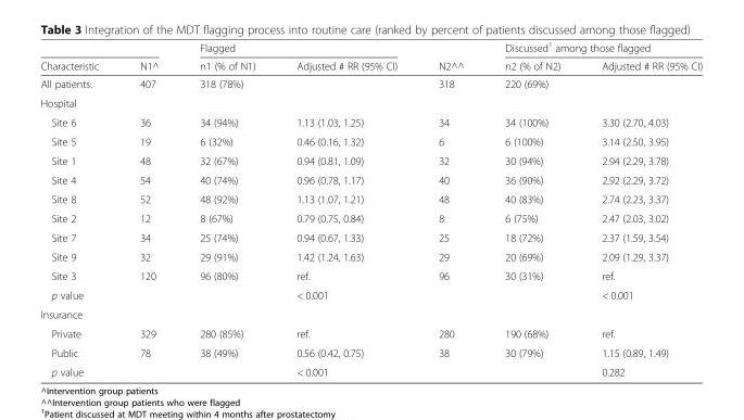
<table><thead><tr><td rowspan="2">Characteristic</td><td rowspan="2">N1^</td><td colspan="2">Flagged</td><td rowspan="2">N2^^</td><td colspan="2">Discussed<sup>1</sup> among those flagged</td></tr><tr><td>n1 (% of N1)</td><td>Adjusted # RR (95% CI)</td><td>n2 (% of N2)</td><td>Adjusted # RR (95% CI)</td></tr></thead><tbody><tr><td>All patients:</td><td>407</td><td>318 (78%)</td><td></td><td>318</td><td>220 (69%)</td><td></td></tr><tr><td colspan="7">Hospital</td></tr><tr><td>Site 6</td><td>36</td><td>34 (94%)</td><td>1.13 (1.03, 1.25)</td><td>34</td><td>34 (100%)</td><td>3.30 (2.70, 4.03)</td></tr><tr><td>Site 5</td><td>19</td><td>6 (32%)</td><td>0.46 (0.16, 1.32)</td><td>6</td><td>6 (100%)</td><td>3.14 (2.50, 3.95)</td></tr><tr><td>Site 1</td><td>48</td><td>32 (67%)</td><td>0.94 (0.81, 1.09)</td><td>32</td><td>30 (94%)</td><td>2.94 (2.29, 3.78)</td></tr><tr><td>Site 4</td><td>54</td><td>40 (74%)</td><td>0.96 (0.78, 1.17)</td><td>40</td><td>36 (90%)</td><td>2.92 (2.29, 3.72)</td></tr><tr><td>Site 8</td><td>52</td><td>48 (92%)</td><td>1.13 (1.07, 1.21)</td><td>48</td><td>40 (83%)</td><td>2.74 (2.23, 3.37)</td></tr><tr><td>Site 2</td><td>12</td><td>8 (67%)</td><td>0.79 (0.75, 0.84)</td><td>8</td><td>6 (75%)</td><td>2.47 (2.03, 3.02)</td></tr><tr><td>Site 7</td><td>34</td><td>25 (74%)</td><td>0.94 (0.67, 1.33)</td><td>25</td><td>18 (72%)</td><td>2.37 (1.59, 3.54)</td></tr><tr><td>Site 9</td><td>32</td><td>29 (91%)</td><td>1.42 (1.24, 1.63)</td><td>29</td><td>20 (69%)</td><td>2.09 (1.29, 3.37)</td></tr><tr><td>Site 3</td><td>120</td><td>96 (80%)</td><td>ref.</td><td>96</td><td>30 (31%)</td><td>ref.</td></tr><tr><td>p value</td><td></td><td></td><td>&lt; 0.001</td><td></td><td></td><td>&lt; 0.001</td></tr><tr><td colspan="7">Insurance</td></tr><tr><td>Private</td><td>329</td><td>280 (85%)</td><td>ref.</td><td>280</td><td>190 (68%)</td><td>ref.</td></tr><tr><td>Public</td><td>78</td><td>38 (49%)</td><td>0.56 (0.42, 0.75)</td><td>38</td><td>30 (79%)</td><td>1.15 (0.89, 1.49)</td></tr><tr><td>p value</td><td></td><td></td><td>&lt; 0.001</td><td></td><td></td><td>0.282</td></tr></tbody></table>